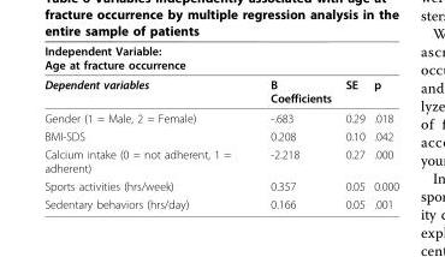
<table><thead><tr><td>Independent Variable: Age at fracture occurrence</td><td></td><td></td><td></td></tr></thead><tbody><tr><td>Dependent variables</td><td>B Coefficients</td><td>SE</td><td>p</td></tr><tr><td>Gender (1 = Male, 2 = Female)</td><td>-.683</td><td>0.29</td><td>.018</td></tr><tr><td>BMI-SDS</td><td>0.208</td><td>0.10</td><td>.042</td></tr><tr><td>Calcium intake (0 = not adherent, 1 = adherent)</td><td>-2.218</td><td>0.27</td><td>.000</td></tr><tr><td>Sports activities (hrs/week)</td><td>0.357</td><td>0.05</td><td>0.000</td></tr><tr><td>Sedentary behaviors (hrs/day)</td><td>0.166</td><td>0.05</td><td>.001</td></tr></tbody></table>